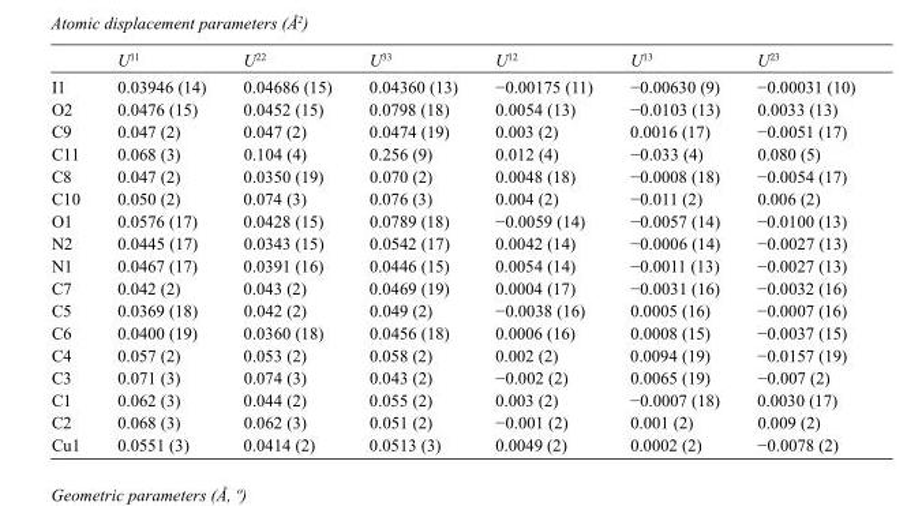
<table><thead><tr><td></td><td>U<sup>11</sup></td><td>U<sup>22</sup></td><td>U<sup>33</sup></td><td>U<sup>12</sup></td><td>U<sup>13</sup></td><td>U<sup>23</sup></td></tr></thead><tbody><tr><td>I1</td><td>0.03946 (14)</td><td>0.04686 (15)</td><td>0.04360 (13)</td><td>−0.00175 (11)</td><td>−0.00630 (9)</td><td>−0.00031 (10)</td></tr><tr><td>O2</td><td>0.0476 (15)</td><td>0.0452 (15)</td><td>0.0798 (18)</td><td>0.0054 (13)</td><td>−0.0103 (13)</td><td>0.0033 (13)</td></tr><tr><td>C9</td><td>0.047 (2)</td><td>0.047 (2)</td><td>0.0474 (19)</td><td>0.003 (2)</td><td>0.0016 (17)</td><td>−0.0051 (17)</td></tr><tr><td>C11</td><td>0.068 (3)</td><td>0.104 (4)</td><td>0.256 (9)</td><td>0.012 (4)</td><td>−0.033 (4)</td><td>0.080 (5)</td></tr><tr><td>C8</td><td>0.047 (2)</td><td>0.0350 (19)</td><td>0.070 (2)</td><td>0.0048 (18)</td><td>−0.0008 (18)</td><td>−0.0054 (17)</td></tr><tr><td>C10</td><td>0.050 (2)</td><td>0.074 (3)</td><td>0.076 (3)</td><td>0.004 (2)</td><td>−0.011 (2)</td><td>0.006 (2)</td></tr><tr><td>O1</td><td>0.0576 (17)</td><td>0.0428 (15)</td><td>0.0789 (18)</td><td>−0.0059 (14)</td><td>−0.0057 (14)</td><td>−0.0100 (13)</td></tr><tr><td>N2</td><td>0.0445 (17)</td><td>0.0343 (15)</td><td>0.0542 (17)</td><td>0.0042 (14)</td><td>−0.0006 (14)</td><td>−0.0027 (13)</td></tr><tr><td>N1</td><td>0.0467 (17)</td><td>0.0391 (16)</td><td>0.0446 (15)</td><td>0.0054 (14)</td><td>−0.0011 (13)</td><td>−0.0027 (13)</td></tr><tr><td>C7</td><td>0.042 (2)</td><td>0.043 (2)</td><td>0.0469 (19)</td><td>0.0004 (17)</td><td>−0.0031 (16)</td><td>−0.0032 (16)</td></tr><tr><td>C5</td><td>0.0369 (18)</td><td>0.042 (2)</td><td>0.049 (2)</td><td>−0.0038 (16)</td><td>0.0005 (16)</td><td>−0.0007 (16)</td></tr><tr><td>C6</td><td>0.0400 (19)</td><td>0.0360 (18)</td><td>0.0456 (18)</td><td>0.0006 (16)</td><td>0.0008 (15)</td><td>−0.0037 (15)</td></tr><tr><td>C4</td><td>0.057 (2)</td><td>0.053 (2)</td><td>0.058 (2)</td><td>0.002 (2)</td><td>0.0094 (19)</td><td>−0.0157 (19)</td></tr><tr><td>C3</td><td>0.071 (3)</td><td>0.074 (3)</td><td>0.043 (2)</td><td>−0.002 (2)</td><td>0.0065 (19)</td><td>−0.007 (2)</td></tr><tr><td>C1</td><td>0.062 (3)</td><td>0.044 (2)</td><td>0.055 (2)</td><td>0.003 (2)</td><td>−0.0007 (18)</td><td>0.0030 (17)</td></tr><tr><td>C2</td><td>0.068 (3)</td><td>0.062 (3)</td><td>0.051 (2)</td><td>−0.001 (2)</td><td>0.001 (2)</td><td>0.009 (2)</td></tr><tr><td>Cu1</td><td>0.0551 (3)</td><td>0.0414 (2)</td><td>0.0513 (3)</td><td>0.0049 (2)</td><td>0.0002 (2)</td><td>−0.0078 (2)</td></tr></tbody></table>